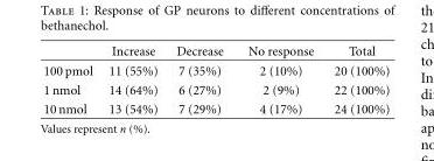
<table><thead><tr><td></td><td>Increase</td><td>Decrease</td><td>No response</td><td>Total</td></tr></thead><tbody><tr><td>100 pmol</td><td>11 (55%)</td><td>7 (35%)</td><td>2 (10%)</td><td>20 (100%)</td></tr><tr><td>1 nmol</td><td>14 (64%)</td><td>6 (27%)</td><td>2 (9%)</td><td>22 (100%)</td></tr><tr><td>10 nmol</td><td>13 (54%)</td><td>7 (29%)</td><td>4 (17%)</td><td>24 (100%)</td></tr></tbody></table>